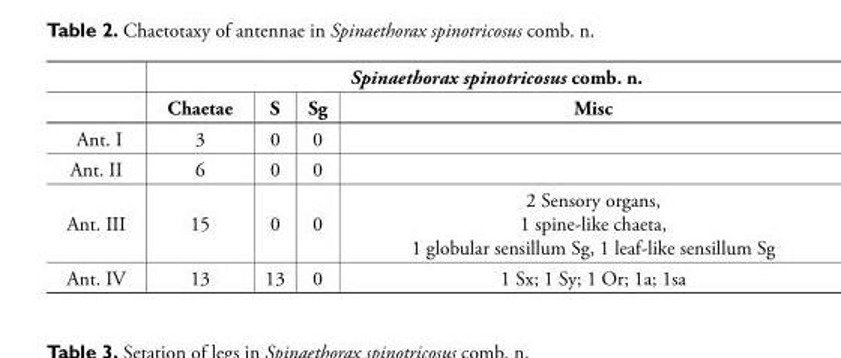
<table><thead><tr><td rowspan="2"></td><td colspan="4">Spinaethorax spinotricosus comb. n.</td></tr><tr><td>Chaetae</td><td>S</td><td>Sg</td><td>Misc</td></tr></thead><tbody><tr><td>Ant. I</td><td>3</td><td>0</td><td>0</td><td></td></tr><tr><td>Ant. II</td><td>6</td><td>0</td><td>0</td><td></td></tr><tr><td>Ant. III</td><td>15</td><td>0</td><td>0</td><td>2 Sensory organs, 1 spine-like chaeta, 1 globular sensillum Sg, 1 leaf-like sensillum Sg</td></tr><tr><td>Ant. IV</td><td>13</td><td>13</td><td>0</td><td>1 Sx; 1 Sy; 1 Or; 1a; 1sa</td></tr></tbody></table>